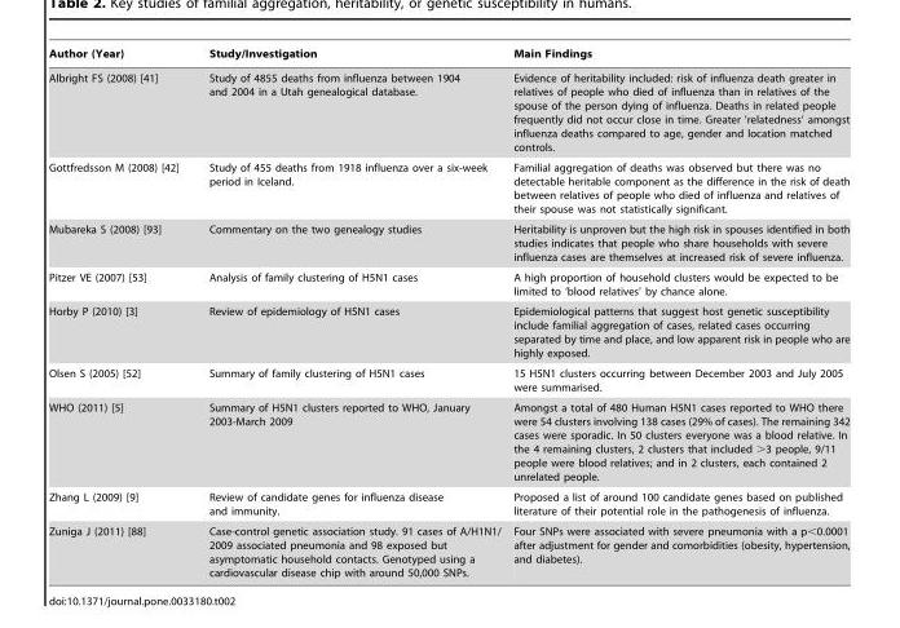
<table><thead><tr><td>Author (Year)</td><td>Study/Investigation</td><td>Main Findings</td></tr></thead><tbody><tr><td>Albright FS (2008) [41]</td><td>Study of 4855 deaths from influenza between 1904 and 2004 in a Utah genealogical database.</td><td>Evidence of heritability included: risk of influenza death greater in relatives of people who died of influenza than in relatives of the spouse of the person dying of influenza. Deaths in related people frequently did not occur close in time. Greater ’relatedness’ amongst influenza deaths compared to age, gender and location matched controls.</td></tr><tr><td>Gottfredsson M (2008) [42]</td><td>Study of 455 deaths from 1918 influenza over a six-week period in Iceland.</td><td>Familial aggregation of deaths was observed but there was no detectable heritable component as the difference in the risk of death between relatives of people who died of influenza and relatives of their spouse was not statistically significant.</td></tr><tr><td>Mubareka S (2008) [93]</td><td>Commentary on the two genealogy studies</td><td>Heritability is unproven but the high risk in spouses identified in both studies indicates that people who share households with severe influenza cases are themselves at increased risk of severe influenza.</td></tr><tr><td>Pitzer VE (2007) [53]</td><td>Analysis of family clustering of H5N1 cases</td><td>A high proportion of household clusters would be expected to be limited to ‘blood relatives’ by chance alone.</td></tr><tr><td>Horby P (2010) [3]</td><td>Review of epidemiology of H5N1 cases</td><td>Epidemiological patterns that suggest host genetic susceptibility include familial aggregation of cases, related cases occurring separated by time and place, and low apparent risk in people who are highly exposed.</td></tr><tr><td>Olsen S (2005) [52]</td><td>Summary of family clustering of H5N1 cases</td><td>15 H5N1 clusters occurring between December 2003 and July 2005 were summarised.</td></tr><tr><td>WHO (2011) [5]</td><td>Summary of H5N1 clusters reported to WHO, January 2003-March 2009</td><td>Amongst a total of 480 Human H5N1 cases reported to WHO there were 54 clusters involving 138 cases (29% of cases). The remaining 342 cases were sporadic. In 50 clusters everyone was a blood relative. In the 4 remaining clusters, 2 clusters that included &gt;3 people, 9/11 people were blood relatives; and in 2 clusters, each contained 2 unrelated people.</td></tr><tr><td>Zhang L (2009) [9]</td><td>Review of candidate genes for influenza disease and immunity.</td><td>Proposed a list of around 100 candidate genes based on published literature of their potential role in the pathogenesis of influenza.</td></tr><tr><td>Zuniga J (2011) [88]</td><td>Case-control genetic association study. 91 cases of A/H1N1/ 2009 associated pneumonia and 98 exposed but asymptomatic household contacts. Genotyped using a cardiovascular disease chip with around 50,000 SNPs.</td><td>Four SNPs were associated with severe pneumonia with a p&lt;0.0001 after adjustment for gender and comorbidities (obesity, hypertension, and diabetes).</td></tr></tbody></table>